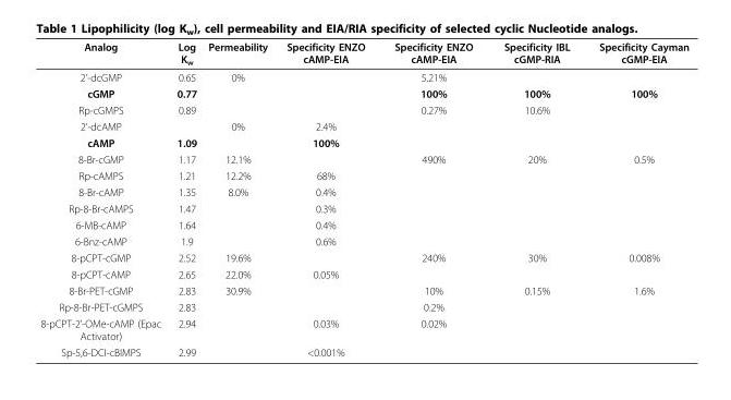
<table><thead><tr><td>Analog</td><td>Log K<sub>w</sub></td><td>Permeability</td><td>Specificity ENZO cAMP-EIA</td><td>Specificity ENZO cAMP-EIA</td><td>Specificity IBL cGMP-RIA</td><td>Specificity Cayman cGMP-EIA</td></tr></thead><tbody><tr><td>2’-dcGMP</td><td>0.65</td><td>0%</td><td></td><td>5.21%</td><td></td><td></td></tr><tr><td>cGMP</td><td>0.77</td><td></td><td></td><td>100%</td><td>100%</td><td>100%</td></tr><tr><td>Rp-cGMPS</td><td>0.89</td><td></td><td></td><td>0.27%</td><td>10.6%</td><td></td></tr><tr><td>2’-dcAMP</td><td></td><td>0%</td><td>2.4%</td><td></td><td></td><td></td></tr><tr><td>cAMP</td><td>1.09</td><td></td><td>100%</td><td></td><td></td><td></td></tr><tr><td>8-Br-cGMP</td><td>1.17</td><td>12.1%</td><td></td><td>490%</td><td>20%</td><td>0.5%</td></tr><tr><td>Rp-cAMPS</td><td>1.21</td><td>12.2%</td><td>68%</td><td></td><td></td><td></td></tr><tr><td>8-Br-cAMP</td><td>1.35</td><td>8.0%</td><td>0.4%</td><td></td><td></td><td></td></tr><tr><td>Rp-8-Br-cAMPS</td><td>1.47</td><td></td><td>0.3%</td><td></td><td></td><td></td></tr><tr><td>6-MB-cAMP</td><td>1.64</td><td></td><td>0.4%</td><td></td><td></td><td></td></tr><tr><td>6-Bnz-cAMP</td><td>1.9</td><td></td><td>0.6%</td><td></td><td></td><td></td></tr><tr><td>8-pCPT-cGMP</td><td>2.52</td><td>19.6%</td><td></td><td>240%</td><td>30%</td><td>0.008%</td></tr><tr><td>8-pCPT-cAMP</td><td>2.65</td><td>22.0%</td><td>0.05%</td><td></td><td></td><td></td></tr><tr><td>8-Br-PET-cGMP</td><td>2.83</td><td>30.9%</td><td></td><td>10%</td><td>0.15%</td><td>1.6%</td></tr><tr><td>Rp-8-Br-PET-cGMPS</td><td>2.83</td><td></td><td></td><td>0.2%</td><td></td><td></td></tr><tr><td>8-pCPT-2’-OMe-cAMP (Epac Activator)</td><td>2.94</td><td></td><td>0.03%</td><td>0.02%</td><td></td><td></td></tr><tr><td>Sp-5,6-DCI-cBIMPS</td><td>2.99</td><td></td><td>&lt;0.001%</td><td></td><td></td><td></td></tr></tbody></table>